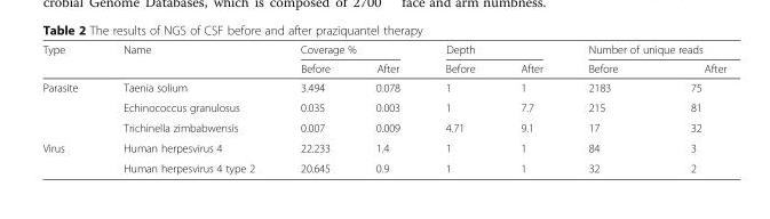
<table><thead><tr><td rowspan="2">Type</td><td rowspan="2">Name</td><td colspan="2">Coverage %</td><td colspan="2">Depth</td><td colspan="2">Number of unique reads</td></tr><tr><td>Before</td><td>After</td><td>Before</td><td>After</td><td>Before</td><td>After</td></tr></thead><tbody><tr><td rowspan="3">Parasite</td><td>Taenia solium</td><td>3.494</td><td>0.078</td><td>1</td><td>1</td><td>2183</td><td>75</td></tr><tr><td>Echinococcus granulosus</td><td>0.035</td><td>0.003</td><td>1</td><td>7.7</td><td>215</td><td>81</td></tr><tr><td>Trichinella zimbabwensis</td><td>0.007</td><td>0.009</td><td>4.71</td><td>9.1</td><td>17</td><td>32</td></tr><tr><td rowspan="2">Virus</td><td>Human herpesvirus 4</td><td>22.233</td><td>1.4</td><td>1</td><td>1</td><td>84</td><td>3</td></tr><tr><td>Human herpesvirus 4 type 2</td><td>20.645</td><td>0.9</td><td>1</td><td>1</td><td>32</td><td>2</td></tr></tbody></table>